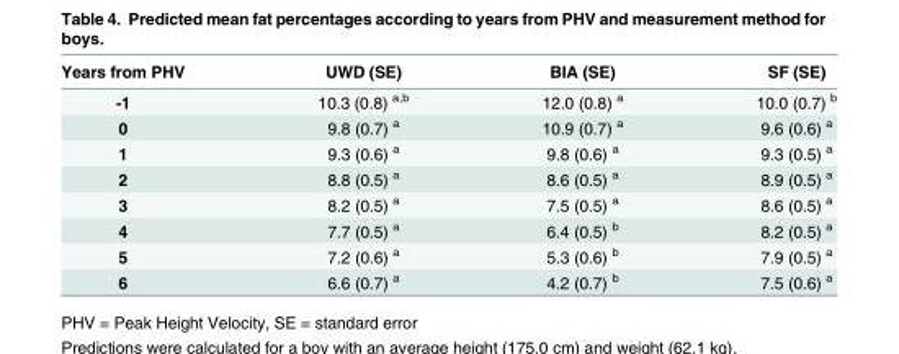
<table><thead><tr><td>Years from PHV</td><td>UWD (SE)</td><td>BIA (SE)</td><td>SF (SE)</td></tr></thead><tbody><tr><td>-1</td><td>10.3 (0.8) <sup>a,b</sup></td><td>12.0 (0.8) <sup>a</sup></td><td>10.0 (0.7) <sup>b</sup></td></tr><tr><td>0</td><td>9.8 (0.7) <sup>a</sup></td><td>10.9 (0.7) <sup>a</sup></td><td>9.6 (0.6) <sup>a</sup></td></tr><tr><td>1</td><td>9.3 (0.6) <sup>a</sup></td><td>9.8 (0.6) <sup>a</sup></td><td>9.3 (0.5) <sup>a</sup></td></tr><tr><td>2</td><td>8.8 (0.5) <sup>a</sup></td><td>8.6 (0.5) <sup>a</sup></td><td>8.9 (0.5) <sup>a</sup></td></tr><tr><td>3</td><td>8.2 (0.5) <sup>a</sup></td><td>7.5 (0.5) <sup>a</sup></td><td>8.6 (0.5) <sup>a</sup></td></tr><tr><td>4</td><td>7.7 (0.5) <sup>a</sup></td><td>6.4 (0.5) <sup>b</sup></td><td>8.2 (0.5) <sup>a</sup></td></tr><tr><td>5</td><td>7.2 (0.6) <sup>a</sup></td><td>5.3 (0.6) <sup>b</sup></td><td>7.9 (0.5) <sup>a</sup></td></tr><tr><td>6</td><td>6.6 (0.7) <sup>a</sup></td><td>4.2 (0.7) <sup>b</sup></td><td>7.5 (0.6) <sup>a</sup></td></tr></tbody></table>